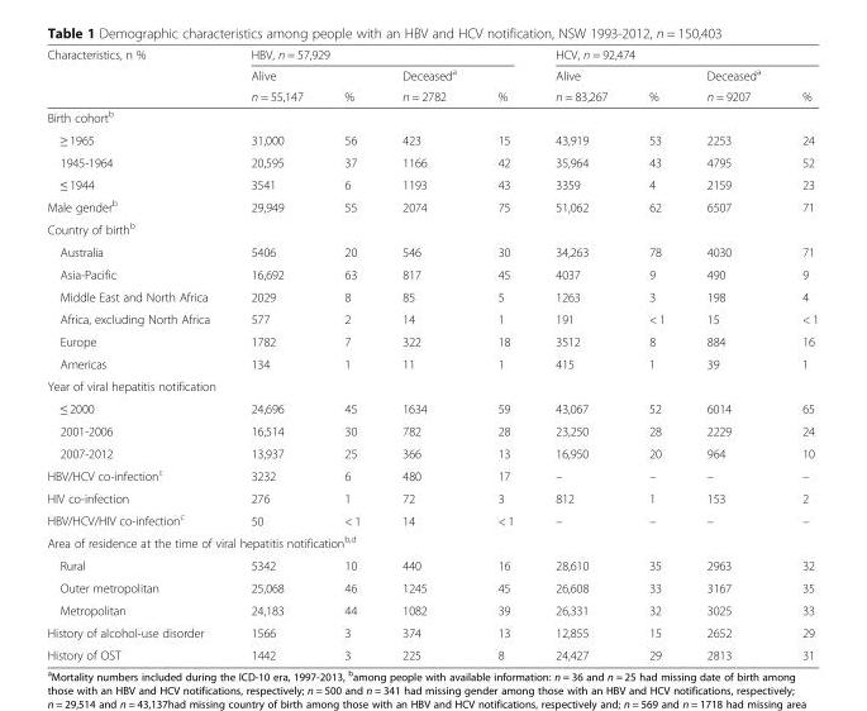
<table><thead><tr><td rowspan="3">Characteristics, n %</td><td colspan="4">HBV, n = 57,929</td><td colspan="4">HCV, n = 92,474</td></tr><tr><td rowspan="2">Alive n = 55,147</td><td rowspan="2">%</td><td rowspan="2">Deceased<sup>a</sup> n = 2782</td><td rowspan="2">%</td><td rowspan="2">Alive n = 83,267</td><td rowspan="2">%</td><td rowspan="2">Deceased<sup>a</sup> n = 9207</td><td rowspan="2">%</td></tr><tr></tr></thead><tbody><tr><td colspan="9">Birth cohort<sup>b</sup></td></tr><tr><td>≥ 1965</td><td>31,000</td><td>56</td><td>423</td><td>15</td><td>43,919</td><td>53</td><td>2253</td><td>24</td></tr><tr><td>1945-1964</td><td>20,595</td><td>37</td><td>1166</td><td>42</td><td>35,964</td><td>43</td><td>4795</td><td>52</td></tr><tr><td>≤ 1944</td><td>3541</td><td>6</td><td>1193</td><td>43</td><td>3359</td><td>4</td><td>2159</td><td>23</td></tr><tr><td>Male gender<sup>b</sup></td><td>29,949</td><td>55</td><td>2074</td><td>75</td><td>51,062</td><td>62</td><td>6507</td><td>71</td></tr><tr><td colspan="9">Country of birth<sup>b</sup></td></tr><tr><td>Australia</td><td>5406</td><td>20</td><td>546</td><td>30</td><td>34,263</td><td>78</td><td>4030</td><td>71</td></tr><tr><td>Asia-Pacific</td><td>16,692</td><td>63</td><td>817</td><td>45</td><td>4037</td><td>9</td><td>490</td><td>9</td></tr><tr><td>Middle East and North Africa</td><td>2029</td><td>8</td><td>85</td><td>5</td><td>1263</td><td>3</td><td>198</td><td>4</td></tr><tr><td>Africa, excluding North Africa</td><td>577</td><td>2</td><td>14</td><td>1</td><td>191</td><td>&lt; 1</td><td>15</td><td>&lt; 1</td></tr><tr><td>Europe</td><td>1782</td><td>7</td><td>322</td><td>18</td><td>3512</td><td>8</td><td>884</td><td>16</td></tr><tr><td>Americas</td><td>134</td><td>1</td><td>11</td><td>1</td><td>415</td><td>1</td><td>39</td><td>1</td></tr><tr><td colspan="9">Year of viral hepatitis notification</td></tr><tr><td>≤ 2000</td><td>24,696</td><td>45</td><td>1634</td><td>59</td><td>43,067</td><td>52</td><td>6014</td><td>65</td></tr><tr><td>2001-2006</td><td>16,514</td><td>30</td><td>782</td><td>28</td><td>23,250</td><td>28</td><td>2229</td><td>24</td></tr><tr><td>2007-2012</td><td>13,937</td><td>25</td><td>366</td><td>13</td><td>16,950</td><td>20</td><td>964</td><td>10</td></tr><tr><td>HBV/HCV co-infection<sup>c</sup></td><td>3232</td><td>6</td><td>480</td><td>17</td><td>–</td><td>–</td><td>–</td><td>–</td></tr><tr><td>HIV co-infection</td><td>276</td><td>1</td><td>72</td><td>3</td><td>812</td><td>1</td><td>153</td><td>2</td></tr><tr><td>HBV/HCV/HIV co-infection<sup>c</sup></td><td>50</td><td>&lt; 1</td><td>14</td><td>&lt; 1</td><td>–</td><td>–</td><td>–</td><td>–</td></tr><tr><td colspan="9">Area of residence at the time of viral hepatitis notification<sup>b,d</sup></td></tr><tr><td>Rural</td><td>5342</td><td>10</td><td>440</td><td>16</td><td>28,610</td><td>35</td><td>2963</td><td>32</td></tr><tr><td>Outer metropolitan</td><td>25,068</td><td>46</td><td>1245</td><td>45</td><td>26,608</td><td>33</td><td>3167</td><td>35</td></tr><tr><td>Metropolitan</td><td>24,183</td><td>44</td><td>1082</td><td>39</td><td>26,331</td><td>32</td><td>3025</td><td>33</td></tr><tr><td>History of alcohol-use disorder</td><td>1566</td><td>3</td><td>374</td><td>13</td><td>12,855</td><td>15</td><td>2652</td><td>29</td></tr><tr><td>History of OST</td><td>1442</td><td>3</td><td>225</td><td>8</td><td>24,427</td><td>29</td><td>2813</td><td>31</td></tr></tbody></table>